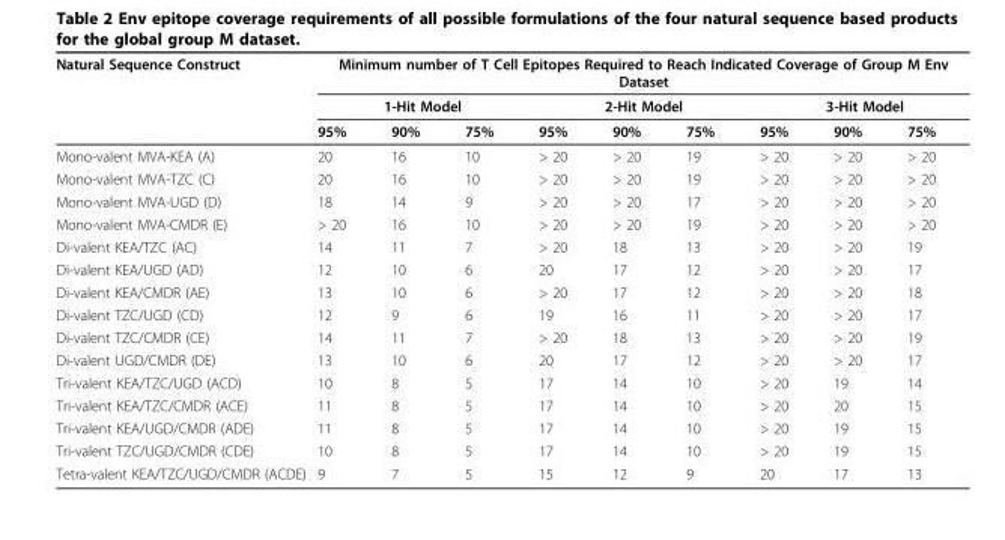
<table><thead><tr><td rowspan="3">Natural Sequence Construct</td><td colspan="9">Minimum number of T Cell Epitopes Required to Reach Indicated Coverage of Group M Env Dataset</td></tr><tr><td colspan="3">1-Hit Model</td><td colspan="3">2-Hit Model</td><td colspan="3">3-Hit Model</td></tr><tr><td>95%</td><td>90%</td><td>75%</td><td>95%</td><td>90%</td><td>75%</td><td>95%</td><td>90%</td><td>75%</td></tr></thead><tbody><tr><td>Mono-valent MVA-KEA (A)</td><td>20</td><td>16</td><td>10</td><td>&gt; 20</td><td>&gt; 20</td><td>19</td><td>&gt; 20</td><td>&gt; 20</td><td>&gt; 20</td></tr><tr><td>Mono-valent MVA-TZC (C)</td><td>20</td><td>16</td><td>10</td><td>&gt; 20</td><td>&gt; 20</td><td>19</td><td>&gt; 20</td><td>&gt; 20</td><td>&gt; 20</td></tr><tr><td>Mono-valent MVA-UGD (D)</td><td>18</td><td>14</td><td>9</td><td>&gt; 20</td><td>&gt; 20</td><td>17</td><td>&gt; 20</td><td>&gt; 20</td><td>&gt; 20</td></tr><tr><td>Mono-valent MVA-CMDR (E)</td><td>&gt; 20</td><td>16</td><td>10</td><td>&gt; 20</td><td>&gt; 20</td><td>19</td><td>&gt; 20</td><td>&gt; 20</td><td>&gt; 20</td></tr><tr><td>Di-valent KEA/TZC (AC)</td><td>14</td><td>11</td><td>7</td><td>&gt; 20</td><td>18</td><td>13</td><td>&gt; 20</td><td>&gt; 20</td><td>19</td></tr><tr><td>Di-valent KEA/UGD (AD)</td><td>12</td><td>10</td><td>6</td><td>20</td><td>17</td><td>12</td><td>&gt; 20</td><td>&gt; 20</td><td>17</td></tr><tr><td>Di-valent KEA/CMDR (AE)</td><td>13</td><td>10</td><td>6</td><td>&gt; 20</td><td>17</td><td>12</td><td>&gt; 20</td><td>&gt; 20</td><td>18</td></tr><tr><td>Di-valent TZC/UGD (CD)</td><td>12</td><td>9</td><td>6</td><td>19</td><td>16</td><td>11</td><td>&gt; 20</td><td>&gt; 20</td><td>17</td></tr><tr><td>Di-valent TZC/CMDR (CE)</td><td>14</td><td>11</td><td>7</td><td>&gt; 20</td><td>18</td><td>13</td><td>&gt; 20</td><td>&gt; 20</td><td>19</td></tr><tr><td>Di-valent UGD/CMDR (DE)</td><td>13</td><td>10</td><td>6</td><td>20</td><td>17</td><td>12</td><td>&gt; 20</td><td>&gt; 20</td><td>17</td></tr><tr><td>Tri-valent KEA/TZC/UGD (ACD)</td><td>10</td><td>8</td><td>5</td><td>17</td><td>14</td><td>10</td><td>&gt; 20</td><td>19</td><td>14</td></tr><tr><td>Tri-valent KEA/TZC/CMDR (ACE)</td><td>11</td><td>8</td><td>5</td><td>17</td><td>14</td><td>10</td><td>&gt; 20</td><td>20</td><td>15</td></tr><tr><td>Tri-valent KEA/UGD/CMDR (ADE)</td><td>11</td><td>8</td><td>5</td><td>17</td><td>14</td><td>10</td><td>&gt; 20</td><td>19</td><td>15</td></tr><tr><td>Tri-valent TZC/UGD/CMDR (CDE)</td><td>10</td><td>8</td><td>5</td><td>17</td><td>14</td><td>10</td><td>&gt; 20</td><td>19</td><td>15</td></tr><tr><td>Tetra-valent KEA/TZC/UGD/CMDR (ACDE)</td><td>9</td><td>7</td><td>5</td><td>15</td><td>12</td><td>9</td><td>20</td><td>17</td><td>13</td></tr></tbody></table>